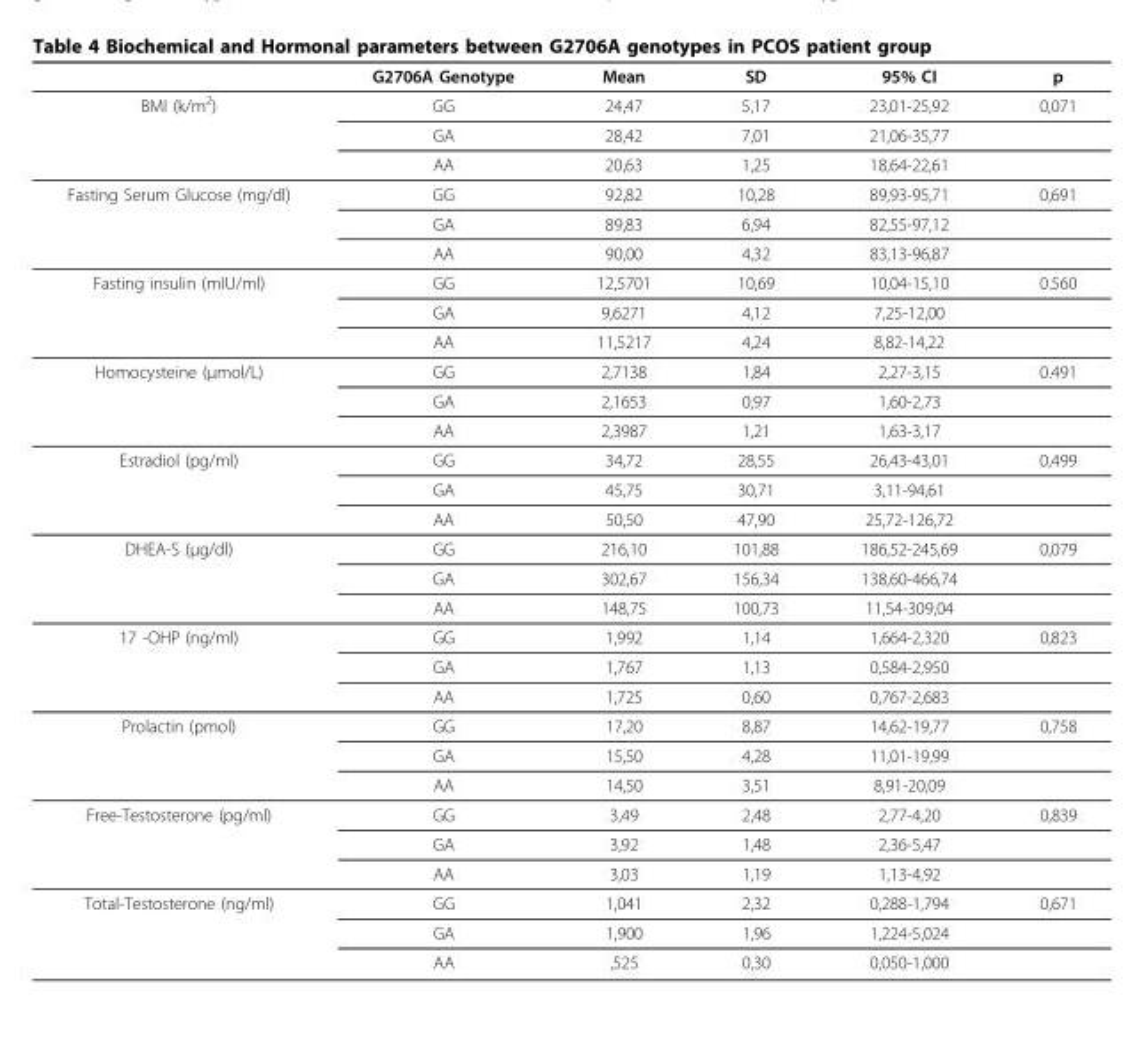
<table><thead><tr><td></td><td>G2706A Genotype</td><td>Mean</td><td>SD</td><td>95% CI</td><td>p</td></tr></thead><tbody><tr><td rowspan="3">BMI (k/m<sup>2</sup>)</td><td>GG</td><td>24,47</td><td>5,17</td><td>23,01-25,92</td><td>0,071</td></tr><tr><td>GA</td><td>28,42</td><td>7,01</td><td>21,06-35,77</td><td></td></tr><tr><td>AA</td><td>20,63</td><td>1,25</td><td>18,64-22,61</td><td></td></tr><tr><td rowspan="3">Fasting Serum Glucose (mg/dl)</td><td>GG</td><td>92,82</td><td>10,28</td><td>89,93-95,71</td><td>0,691</td></tr><tr><td>GA</td><td>89,83</td><td>6,94</td><td>82,55-97,12</td><td></td></tr><tr><td>AA</td><td>90,00</td><td>4,32</td><td>83,13-96,87</td><td></td></tr><tr><td rowspan="3">Fasting insulin (mIU/ml)</td><td>GG</td><td>12,5701</td><td>10,69</td><td>10,04-15,10</td><td>0.560</td></tr><tr><td>GA</td><td>9,6271</td><td>4,12</td><td>7,25-12,00</td><td></td></tr><tr><td>AA</td><td>11,5217</td><td>4,24</td><td>8,82-14,22</td><td></td></tr><tr><td rowspan="3">Homocysteine (μmol/L)</td><td>GG</td><td>2,7138</td><td>1,84</td><td>2,27-3,15</td><td>0.491</td></tr><tr><td>GA</td><td>2,1653</td><td>0,97</td><td>1,60-2,73</td><td></td></tr><tr><td>AA</td><td>2,3987</td><td>1,21</td><td>1,63-3,17</td><td></td></tr><tr><td rowspan="3">Estradiol (pg/ml)</td><td>GG</td><td>34,72</td><td>28,55</td><td>26,43-43,01</td><td>0,499</td></tr><tr><td>GA</td><td>45,75</td><td>30,71</td><td>3,11-94,61</td><td></td></tr><tr><td>AA</td><td>50,50</td><td>47,90</td><td>25,72-126,72</td><td></td></tr><tr><td rowspan="3">DHEA-S (μg/dl)</td><td>GG</td><td>216,10</td><td>101,88</td><td>186,52-245,69</td><td>0,079</td></tr><tr><td>GA</td><td>302,67</td><td>156,34</td><td>138,60-466,74</td><td></td></tr><tr><td>AA</td><td>148,75</td><td>100,73</td><td>11,54-309,04</td><td></td></tr><tr><td rowspan="3">17 -OHP (ng/ml)</td><td>GG</td><td>1,992</td><td>1,14</td><td>1,664-2,320</td><td>0,823</td></tr><tr><td>GA</td><td>1,767</td><td>1,13</td><td>0,584-2,950</td><td></td></tr><tr><td>AA</td><td>1,725</td><td>0,60</td><td>0,767-2,683</td><td></td></tr><tr><td rowspan="3">Prolactin (pmol)</td><td>GG</td><td>17,20</td><td>8,87</td><td>14,62-19,77</td><td>0,758</td></tr><tr><td>GA</td><td>15,50</td><td>4,28</td><td>11,01-19,99</td><td></td></tr><tr><td>AA</td><td>14,50</td><td>3,51</td><td>8,91-20,09</td><td></td></tr><tr><td rowspan="3">Free-Testosterone (pg/ml)</td><td>GG</td><td>3,49</td><td>2,48</td><td>2,77-4,20</td><td>0,839</td></tr><tr><td>GA</td><td>3,92</td><td>1,48</td><td>2,36-5,47</td><td></td></tr><tr><td>AA</td><td>3,03</td><td>1,19</td><td>1,13-4,92</td><td></td></tr><tr><td rowspan="3">Total-Testosterone (ng/ml)</td><td>GG</td><td>1,041</td><td>2,32</td><td>0,288-1,794</td><td>0,671</td></tr><tr><td>GA</td><td>1,900</td><td>1,96</td><td>1,224-5,024</td><td></td></tr><tr><td>AA</td><td>,525</td><td>0,30</td><td>0,050-1,000</td><td></td></tr></tbody></table>